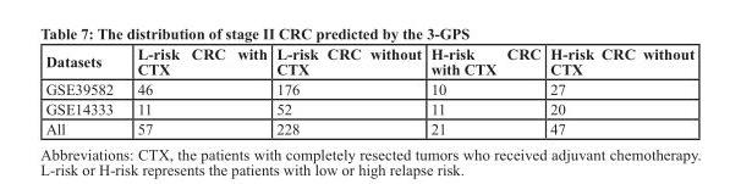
<table><thead><tr><td>Datasets</td><td>L-risk CRC with CTX</td><td>L-risk CRC without CTX</td><td>H-risk CRC with CTX</td><td>H-risk CRC without CTX</td></tr></thead><tbody><tr><td>GSE39582</td><td>46</td><td>176</td><td>10</td><td>27</td></tr><tr><td>GSE14333</td><td>11</td><td>52</td><td>11</td><td>20</td></tr><tr><td>All</td><td>57</td><td>228</td><td>21</td><td>47</td></tr></tbody></table>